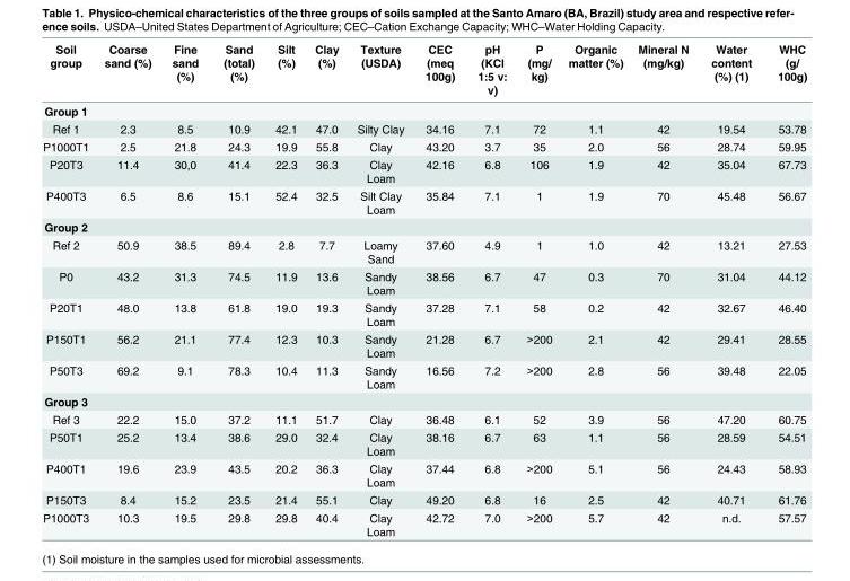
<table><thead><tr><td>Soil group</td><td>Coarse sand (%)</td><td>Fine sand (%)</td><td>Sand (total) (%)</td><td>Silt (%)</td><td>Clay (%)</td><td>Texture (USDA)</td><td>CEC (meq 100g)</td><td>pH (KCl 1:5 v: v)</td><td>P (mg/ kg)</td><td>Organic matter (%)</td><td>Mineral N (mg/kg)</td><td>Water content (%) (1)</td><td>WHC (g/ 100g)</td></tr></thead><tbody><tr><td colspan="14">Group 1</td></tr><tr><td>Ref 1</td><td>2.3</td><td>8.5</td><td>10.9</td><td>42.1</td><td>47.0</td><td>Silty Clay</td><td>34.16</td><td>7.1</td><td>72</td><td>1.1</td><td>42</td><td>19.54</td><td>53.78</td></tr><tr><td>P1000T1</td><td>2.5</td><td>21.8</td><td>24.3</td><td>19.9</td><td>55.8</td><td>Clay</td><td>43.20</td><td>3.7</td><td>35</td><td>2.0</td><td>56</td><td>28.74</td><td>59.95</td></tr><tr><td>P20T3</td><td>11.4</td><td>30,0</td><td>41.4</td><td>22.3</td><td>36.3</td><td>Clay Loam</td><td>42.16</td><td>6.8</td><td>106</td><td>1.9</td><td>42</td><td>35.04</td><td>67.73</td></tr><tr><td>P400T3</td><td>6.5</td><td>8.6</td><td>15.1</td><td>52.4</td><td>32.5</td><td>Silt Clay Loam</td><td>35.84</td><td>7.1</td><td>1</td><td>1.9</td><td>70</td><td>45.48</td><td>56.67</td></tr><tr><td colspan="14">Group 2</td></tr><tr><td>Ref 2</td><td>50.9</td><td>38.5</td><td>89.4</td><td>2.8</td><td>7.7</td><td>Loamy Sand</td><td>37.60</td><td>4.9</td><td>1</td><td>1.0</td><td>42</td><td>13.21</td><td>27.53</td></tr><tr><td>P0</td><td>43.2</td><td>31.3</td><td>74.5</td><td>11.9</td><td>13.6</td><td>Sandy Loam</td><td>38.56</td><td>6.7</td><td>47</td><td>0.3</td><td>70</td><td>31.04</td><td>44.12</td></tr><tr><td>P20T1</td><td>48.0</td><td>13.8</td><td>61.8</td><td>19.0</td><td>19.3</td><td>Sandy Loam</td><td>37.28</td><td>7.1</td><td>58</td><td>0.2</td><td>42</td><td>32.67</td><td>46.40</td></tr><tr><td>P150T1</td><td>56.2</td><td>21.1</td><td>77.4</td><td>12.3</td><td>10.3</td><td>Sandy Loam</td><td>21.28</td><td>6.7</td><td>&gt;200</td><td>2.1</td><td>42</td><td>29.41</td><td>28.55</td></tr><tr><td>P50T3</td><td>69.2</td><td>9.1</td><td>78.3</td><td>10.4</td><td>11.3</td><td>Sandy Loam</td><td>16.56</td><td>7.2</td><td>&gt;200</td><td>2.8</td><td>56</td><td>39.48</td><td>22.05</td></tr><tr><td colspan="14">Group 3</td></tr><tr><td>Ref 3</td><td>22.2</td><td>15.0</td><td>37.2</td><td>11.1</td><td>51.7</td><td>Clay</td><td>36.48</td><td>6.1</td><td>52</td><td>3.9</td><td>56</td><td>47.20</td><td>60.75</td></tr><tr><td>P50T1</td><td>25.2</td><td>13.4</td><td>38.6</td><td>29.0</td><td>32.4</td><td>Clay Loam</td><td>38.16</td><td>6.7</td><td>63</td><td>1.1</td><td>56</td><td>28.59</td><td>54.51</td></tr><tr><td>P400T1</td><td>19.6</td><td>23.9</td><td>43.5</td><td>20.2</td><td>36.3</td><td>Clay Loam</td><td>37.44</td><td>6.8</td><td>&gt;200</td><td>5.1</td><td>56</td><td>24.43</td><td>58.93</td></tr><tr><td>P150T3</td><td>8.4</td><td>15.2</td><td>23.5</td><td>21.4</td><td>55.1</td><td>Clay</td><td>49.20</td><td>6.8</td><td>16</td><td>2.5</td><td>42</td><td>40.71</td><td>61.76</td></tr><tr><td>P1000T3</td><td>10.3</td><td>19.5</td><td>29.8</td><td>29.8</td><td>40.4</td><td>Clay Loam</td><td>42.72</td><td>7.0</td><td>&gt;200</td><td>5.7</td><td>42</td><td>n.d.</td><td>57.57</td></tr></tbody></table>